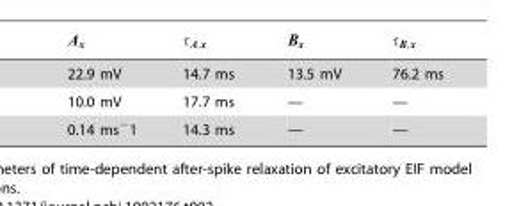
<table><tbody><tr><td>22.9 mV</td><td>14.7 ms</td><td>13.5 mV</td><td>76.2 ms</td></tr><tr><td>10.0 mV</td><td>17.7 ms</td><td>—</td><td>—</td></tr><tr><td>0.14 ms<sup>−</sup>1</td><td>14.3 ms</td><td>—</td><td>—</td></tr></tbody></table>